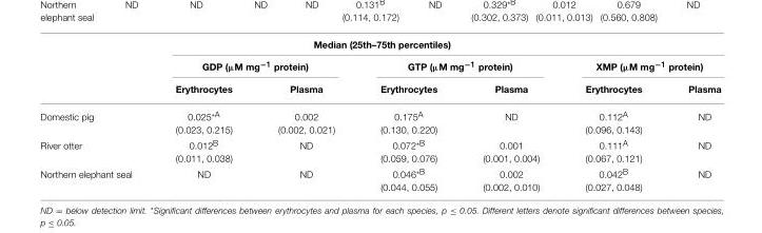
<table><thead><tr><td colspan="7">Median (25th–75th percentiles)</td></tr><tr><td rowspan="2"></td><td colspan="2">GDP (µM mg<sup>−1</sup> protein)</td><td colspan="2">GTP (µM mg<sup>−1</sup> protein)</td><td colspan="2">XMP (µM mg<sup>−1</sup> protein)</td></tr><tr><td>Erythrocytes</td><td>Plasma</td><td>Erythrocytes</td><td>Plasma</td><td>Erythrocytes</td><td>Plasma</td></tr></thead><tbody><tr><td>Domestic pig</td><td>0.025<sup>*A</sup> (0.023, 0.215)</td><td>0.002 (0.002, 0.021)</td><td>0.175<sup>A</sup> (0.130, 0.220)</td><td>ND</td><td>0.112<sup>A</sup> (0.096, 0.143)</td><td>ND</td></tr><tr><td>River otter</td><td>0.012<sup>B</sup> (0.011, 0.038)</td><td>ND</td><td>0.072<sup>*B</sup> (0.059, 0.076)</td><td>0.001 (0.001, 0.004)</td><td>0.111<sup>A</sup> (0.067, 0.121)</td><td>ND</td></tr><tr><td>Northern elephant seal</td><td>ND</td><td>ND</td><td>0.046<sup>*B</sup> (0.044, 0.055)</td><td>0.002 (0.002, 0.010)</td><td>0.042<sup>B</sup> (0.027, 0.048)</td><td>ND</td></tr></tbody></table>